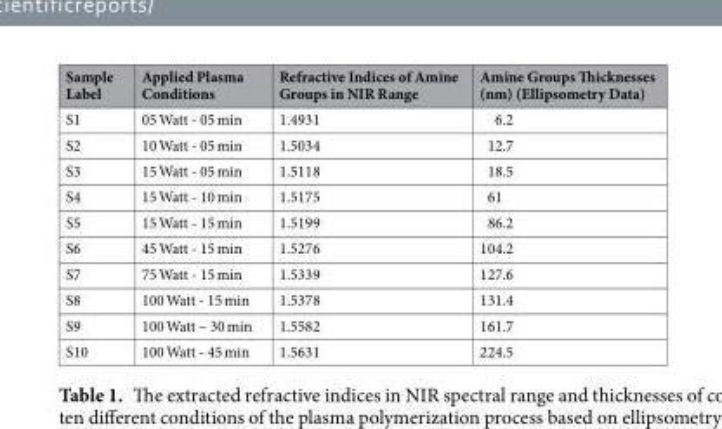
<table><thead><tr><td>Sample Label</td><td>Applied Plasma Conditions</td><td>Refractive Indices of Amine Groups in NIR Range</td><td>Amine Groups Thicknesses (nm) (Ellipsometry Data)</td></tr></thead><tbody><tr><td>S1</td><td>05 Watt - 05 min</td><td>1.4931</td><td>6.2</td></tr><tr><td>S2</td><td>10 Watt - 05 min</td><td>1.5034</td><td>12.7</td></tr><tr><td>S3</td><td>15 Watt - 05 min</td><td>1.5118</td><td>18.5</td></tr><tr><td>S4</td><td>15 Watt - 10 min</td><td>1.5175</td><td>61</td></tr><tr><td>S5</td><td>15 Watt - 15 min</td><td>1.5199</td><td>86.2</td></tr><tr><td>S6</td><td>45 Watt - 15 min</td><td>1.5276</td><td>104.2</td></tr><tr><td>S7</td><td>75 Watt - 15 min</td><td>1.5339</td><td>127.6</td></tr><tr><td>S8</td><td>100 Watt - 15 min</td><td>1.5378</td><td>131.4</td></tr><tr><td>S9</td><td>100 Watt – 30 min</td><td>1.5582</td><td>161.7</td></tr><tr><td>S10</td><td>100 Watt - 45 min</td><td>1.5631</td><td>224.5</td></tr></tbody></table>